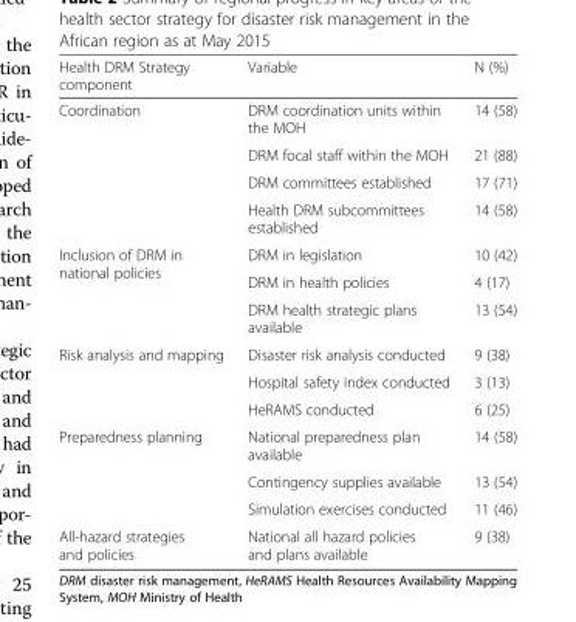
<table><thead><tr><td>Health DRM Strategy component</td><td>Variable</td><td>N (%)</td></tr></thead><tbody><tr><td rowspan="4">Coordination</td><td>DRM coordination units within the MOH</td><td>14 (58)</td></tr><tr><td>DRM focal staff within the MOH</td><td>21 (88)</td></tr><tr><td>DRM committees established</td><td>17 (71)</td></tr><tr><td>Health DRM subcommittees established</td><td>14 (58)</td></tr><tr><td rowspan="3">Inclusion of DRM in national policies</td><td>DRM in legislation</td><td>10 (42)</td></tr><tr><td>DRM in health policies</td><td>4 (17)</td></tr><tr><td>DRM health strategic plans available</td><td>13 (54)</td></tr><tr><td rowspan="3">Risk analysis and mapping</td><td>Disaster risk analysis conducted</td><td>9 (38)</td></tr><tr><td>Hospital safety index conducted</td><td>3 (13)</td></tr><tr><td>HeRAMS conducted</td><td>6 (25)</td></tr><tr><td rowspan="3">Preparedness planning</td><td>National preparedness plan available</td><td>14 (58)</td></tr><tr><td>Contingency supplies available</td><td>13 (54)</td></tr><tr><td>Simulation exercises conducted</td><td>11 (46)</td></tr><tr><td>All-hazard strategies and policies</td><td>National all hazard policies and plans available</td><td>9 (38)</td></tr></tbody></table>